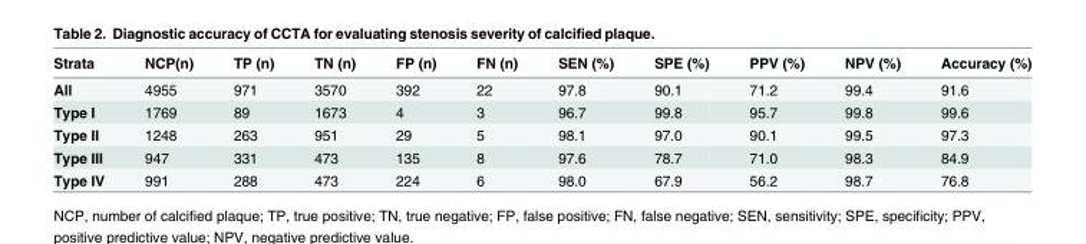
<table><thead><tr><td>Strata</td><td>NCP(n)</td><td>TP (n)</td><td>TN (n)</td><td>FP (n)</td><td>FN (n)</td><td>SEN (%)</td><td>SPE (%)</td><td>PPV (%)</td><td>NPV (%)</td><td>Accuracy (%)</td></tr></thead><tbody><tr><td>All</td><td>4955</td><td>971</td><td>3570</td><td>392</td><td>22</td><td>97.8</td><td>90.1</td><td>71.2</td><td>99.4</td><td>91.6</td></tr><tr><td>Type I</td><td>1769</td><td>89</td><td>1673</td><td>4</td><td>3</td><td>96.7</td><td>99.8</td><td>95.7</td><td>99.8</td><td>99.6</td></tr><tr><td>Type II</td><td>1248</td><td>263</td><td>951</td><td>29</td><td>5</td><td>98.1</td><td>97.0</td><td>90.1</td><td>99.5</td><td>97.3</td></tr><tr><td>Type III</td><td>947</td><td>331</td><td>473</td><td>135</td><td>8</td><td>97.6</td><td>78.7</td><td>71.0</td><td>98.3</td><td>84.9</td></tr><tr><td>Type IV</td><td>991</td><td>288</td><td>473</td><td>224</td><td>6</td><td>98.0</td><td>67.9</td><td>56.2</td><td>98.7</td><td>76.8</td></tr></tbody></table>